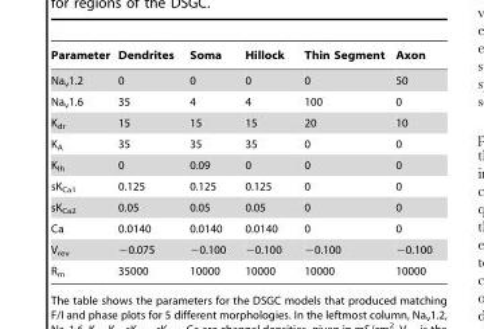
<table><thead><tr><td>Parameter</td><td>Dendrites</td><td>Soma</td><td>Hillock</td><td>Thin Segment</td><td>Axon</td></tr></thead><tbody><tr><td>Na<sub>v</sub>1.2</td><td>0</td><td>0</td><td>0</td><td>0</td><td>50</td></tr><tr><td>Na<sub>v</sub>1.6</td><td>35</td><td>4</td><td>4</td><td>100</td><td>0</td></tr><tr><td>K<sub>dr</sub></td><td>15</td><td>15</td><td>15</td><td>20</td><td>10</td></tr><tr><td>K<sub>A</sub></td><td>35</td><td>35</td><td>35</td><td>0</td><td>0</td></tr><tr><td>K<sub>Ih</sub></td><td>0</td><td>0.09</td><td>0</td><td>0</td><td>0</td></tr><tr><td>sK<sub>Ca1</sub></td><td>0.125</td><td>0.125</td><td>0.125</td><td>0</td><td>0</td></tr><tr><td>sK<sub>Ca2</sub></td><td>0.05</td><td>0.05</td><td>0.05</td><td>0</td><td>0</td></tr><tr><td>Ca</td><td>0.0140</td><td>0.0140</td><td>0.0140</td><td>0</td><td>0</td></tr><tr><td>V<sub>rev</sub></td><td>−0.075</td><td>−0.100</td><td>−0.100</td><td>−0.100</td><td>−0.100</td></tr><tr><td>R<sub>m</sub></td><td>35000</td><td>10000</td><td>10000</td><td>10000</td><td>10000</td></tr></tbody></table>